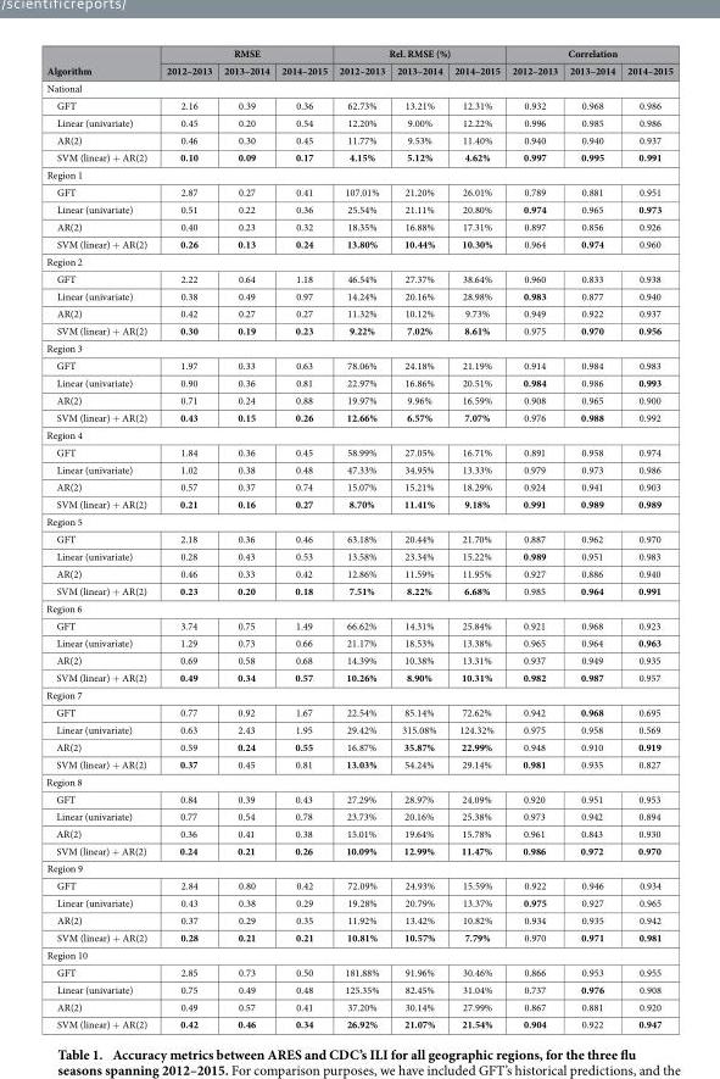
<table><thead><tr><td rowspan="2">Algorithm</td><td colspan="3">RMSE</td><td colspan="3">Rel. RMSE (%)</td><td colspan="3">Correlation</td></tr><tr><td>2012–2013</td><td>2013–2014</td><td>2014–2015</td><td>2012–2013</td><td>2013–2014</td><td>2014–2015</td><td>2012–2013</td><td>2013–2014</td><td>2014–2015</td></tr></thead><tbody><tr><td colspan="10">National</td></tr><tr><td>GFT</td><td>2.16</td><td>0.39</td><td>0.36</td><td>62.73%</td><td>13.21%</td><td>12.31%</td><td>0.932</td><td>0.968</td><td>0.986</td></tr><tr><td>Linear (univariate)</td><td>0.45</td><td>0.20</td><td>0.54</td><td>12.20%</td><td>9.00%</td><td>12.22%</td><td>0.996</td><td>0.985</td><td>0.986</td></tr><tr><td>AR(2)</td><td>0.46</td><td>0.30</td><td>0.45</td><td>11.77%</td><td>9.53%</td><td>11.40%</td><td>0.940</td><td>0.940</td><td>0.937</td></tr><tr><td>SVM (linear) + AR(2)</td><td>0.10</td><td>0.09</td><td>0.17</td><td>4.15%</td><td>5.12%</td><td>4.62%</td><td>0.997</td><td>0.995</td><td>0.991</td></tr><tr><td colspan="10">Region 1</td></tr><tr><td>GFT</td><td>2.87</td><td>0.27</td><td>0.41</td><td>107.01%</td><td>21.20%</td><td>26.01%</td><td>0.789</td><td>0.881</td><td>0.951</td></tr><tr><td>Linear (univariate)</td><td>0.51</td><td>0.22</td><td>0.36</td><td>25.54%</td><td>21.11%</td><td>20.80%</td><td>0.974</td><td>0.965</td><td>0.973</td></tr><tr><td>AR(2)</td><td>0.40</td><td>0.23</td><td>0.32</td><td>18.35%</td><td>16.88%</td><td>17.31%</td><td>0.897</td><td>0.856</td><td>0.926</td></tr><tr><td>SVM (linear) + AR(2)</td><td>0.26</td><td>0.13</td><td>0.24</td><td>13.80%</td><td>10.44%</td><td>10.30%</td><td>0.964</td><td>0.974</td><td>0.960</td></tr><tr><td colspan="10">Region 2</td></tr><tr><td>GFT</td><td>2.22</td><td>0.64</td><td>1.18</td><td>46.54%</td><td>27.37%</td><td>38.64%</td><td>0.960</td><td>0.833</td><td>0.938</td></tr><tr><td>Linear (univariate)</td><td>0.38</td><td>0.49</td><td>0.97</td><td>14.24%</td><td>20.16%</td><td>28.98%</td><td>0.983</td><td>0.877</td><td>0.940</td></tr><tr><td>AR(2)</td><td>0.42</td><td>0.27</td><td>0.27</td><td>11.32%</td><td>10.12%</td><td>9.73%</td><td>0.949</td><td>0.922</td><td>0.937</td></tr><tr><td>SVM (linear) + AR(2)</td><td>0.30</td><td>0.19</td><td>0.23</td><td>9.22%</td><td>7.02%</td><td>8.61%</td><td>0.975</td><td>0.970</td><td>0.956</td></tr><tr><td colspan="10">Region 3</td></tr><tr><td>GFT</td><td>1.97</td><td>0.33</td><td>0.63</td><td>78.06%</td><td>24.18%</td><td>21.19%</td><td>0.914</td><td>0.984</td><td>0.983</td></tr><tr><td>Linear (univariate)</td><td>0.90</td><td>0.36</td><td>0.81</td><td>22.97%</td><td>16.86%</td><td>20.51%</td><td>0.984</td><td>0.986</td><td>0.993</td></tr><tr><td>AR(2)</td><td>0.71</td><td>0.24</td><td>0.88</td><td>19.97%</td><td>9.96%</td><td>16.59%</td><td>0.908</td><td>0.965</td><td>0.900</td></tr><tr><td>SVM (linear) + AR(2)</td><td>0.43</td><td>0.15</td><td>0.26</td><td>12.66%</td><td>6.57%</td><td>7.07%</td><td>0.976</td><td>0.988</td><td>0.992</td></tr><tr><td colspan="10">Region 4</td></tr><tr><td>GFT</td><td>1.84</td><td>0.36</td><td>0.45</td><td>58.99%</td><td>27.05%</td><td>16.71%</td><td>0.891</td><td>0.958</td><td>0.974</td></tr><tr><td>Linear (univariate)</td><td>1.02</td><td>0.38</td><td>0.48</td><td>47.33%</td><td>34.95%</td><td>13.33%</td><td>0.979</td><td>0.973</td><td>0.986</td></tr><tr><td>AR(2)</td><td>0.57</td><td>0.37</td><td>0.74</td><td>15.07%</td><td>15.21%</td><td>18.29%</td><td>0.924</td><td>0.941</td><td>0.903</td></tr><tr><td>SVM (linear) + AR(2)</td><td>0.21</td><td>0.16</td><td>0.27</td><td>8.70%</td><td>11.41%</td><td>9.18%</td><td>0.991</td><td>0.989</td><td>0.989</td></tr><tr><td colspan="10">Region 5</td></tr><tr><td>GFT</td><td>2.18</td><td>0.36</td><td>0.46</td><td>63.18%</td><td>20.44%</td><td>21.70%</td><td>0.887</td><td>0.962</td><td>0.970</td></tr><tr><td>Linear (univariate)</td><td>0.28</td><td>0.43</td><td>0.53</td><td>13.58%</td><td>23.34%</td><td>15.22%</td><td>0.989</td><td>0.951</td><td>0.983</td></tr><tr><td>AR(2)</td><td>0.46</td><td>0.33</td><td>0.42</td><td>12.86%</td><td>11.59%</td><td>11.95%</td><td>0.927</td><td>0.886</td><td>0.940</td></tr><tr><td>SVM (linear) + AR(2)</td><td>0.23</td><td>0.20</td><td>0.18</td><td>7.51%</td><td>8.22%</td><td>6.68%</td><td>0.985</td><td>0.964</td><td>0.991</td></tr><tr><td colspan="10">Region 6</td></tr><tr><td>GFT</td><td>3.74</td><td>0.75</td><td>1.49</td><td>66.62%</td><td>14.31%</td><td>25.84%</td><td>0.921</td><td>0.968</td><td>0.923</td></tr><tr><td>Linear (univariate)</td><td>1.29</td><td>0.73</td><td>0.66</td><td>21.17%</td><td>18.53%</td><td>13.38%</td><td>0.965</td><td>0.964</td><td>0.963</td></tr><tr><td>AR(2)</td><td>0.69</td><td>0.58</td><td>0.68</td><td>14.39%</td><td>10.38%</td><td>13.31%</td><td>0.937</td><td>0.949</td><td>0.935</td></tr><tr><td>SVM (linear) + AR(2)</td><td>0.49</td><td>0.34</td><td>0.57</td><td>10.26%</td><td>8.90%</td><td>10.31%</td><td>0.982</td><td>0.987</td><td>0.957</td></tr><tr><td colspan="10">Region 7</td></tr><tr><td>GFT</td><td>0.77</td><td>0.92</td><td>1.67</td><td>22.54%</td><td>85.14%</td><td>72.62%</td><td>0.942</td><td>0.968</td><td>0.695</td></tr><tr><td>Linear (univariate)</td><td>0.63</td><td>2.43</td><td>1.95</td><td>29.42%</td><td>315.08%</td><td>124.32%</td><td>0.975</td><td>0.958</td><td>0.569</td></tr><tr><td>AR(2)</td><td>0.59</td><td>0.24</td><td>0.55</td><td>16.87%</td><td>35.87%</td><td>22.99%</td><td>0.948</td><td>0.910</td><td>0.919</td></tr><tr><td>SVM (linear) + AR(2)</td><td>0.37</td><td>0.45</td><td>0.81</td><td>13.03%</td><td>54.24%</td><td>29.14%</td><td>0.981</td><td>0.935</td><td>0.827</td></tr><tr><td colspan="10">Region 8</td></tr><tr><td>GFT</td><td>0.84</td><td>0.39</td><td>0.43</td><td>27.29%</td><td>28.97%</td><td>24.09%</td><td>0.920</td><td>0.951</td><td>0.953</td></tr><tr><td>Linear (univariate)</td><td>0.77</td><td>0.54</td><td>0.78</td><td>23.73%</td><td>20.16%</td><td>25.38%</td><td>0.973</td><td>0.942</td><td>0.894</td></tr><tr><td>AR(2)</td><td>0.36</td><td>0.41</td><td>0.38</td><td>15.01%</td><td>19.64%</td><td>15.78%</td><td>0.961</td><td>0.843</td><td>0.930</td></tr><tr><td>SVM (linear) + AR(2)</td><td>0.24</td><td>0.21</td><td>0.26</td><td>10.09%</td><td>12.99%</td><td>11.47%</td><td>0.986</td><td>0.972</td><td>0.970</td></tr><tr><td colspan="10">Region 9</td></tr><tr><td>GFT</td><td>2.84</td><td>0.80</td><td>0.42</td><td>72.09%</td><td>24.93%</td><td>15.59%</td><td>0.922</td><td>0.946</td><td>0.934</td></tr><tr><td>Linear (univariate)</td><td>0.43</td><td>0.38</td><td>0.29</td><td>19.28%</td><td>20.79%</td><td>13.37%</td><td>0.975</td><td>0.927</td><td>0.965</td></tr><tr><td>AR(2)</td><td>0.37</td><td>0.29</td><td>0.35</td><td>11.92%</td><td>13.42%</td><td>10.82%</td><td>0.934</td><td>0.935</td><td>0.942</td></tr><tr><td>SVM (linear) + AR(2)</td><td>0.28</td><td>0.21</td><td>0.21</td><td>10.81%</td><td>10.57%</td><td>7.79%</td><td>0.970</td><td>0.971</td><td>0.981</td></tr><tr><td colspan="10">Region 10</td></tr><tr><td>GFT</td><td>2.85</td><td>0.73</td><td>0.50</td><td>181.88%</td><td>91.96%</td><td>30.46%</td><td>0.866</td><td>0.953</td><td>0.955</td></tr><tr><td>Linear (univariate)</td><td>0.75</td><td>0.49</td><td>0.48</td><td>125.35%</td><td>82.45%</td><td>31.04%</td><td>0.737</td><td>0.976</td><td>0.908</td></tr><tr><td>AR(2)</td><td>0.49</td><td>0.57</td><td>0.41</td><td>37.20%</td><td>30.14%</td><td>27.99%</td><td>0.867</td><td>0.881</td><td>0.920</td></tr><tr><td>SVM (linear) + AR(2)</td><td>0.42</td><td>0.46</td><td>0.34</td><td>26.92%</td><td>21.07%</td><td>21.54%</td><td>0.904</td><td>0.922</td><td>0.947</td></tr></tbody></table>